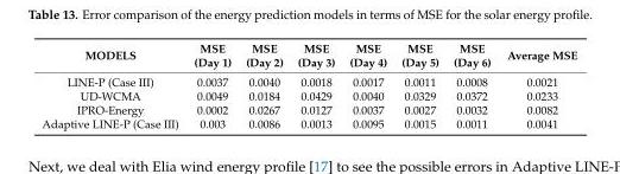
<table><thead><tr><td>MODELS</td><td>MSE (Day 1)</td><td>MSE (Day 2)</td><td>MSE (Day 3)</td><td>MSE (Day 4)</td><td>MSE (Day 5)</td><td>MSE (Day 6)</td><td>Average MSE</td></tr></thead><tbody><tr><td>LINE-P (Case III)</td><td>0.0037</td><td>0.0040</td><td>0.0018</td><td>0.0017</td><td>0.0011</td><td>0.0008</td><td>0.0021</td></tr><tr><td>UD-WCMA</td><td>0.0049</td><td>0.0184</td><td>0.0429</td><td>0.0040</td><td>0.0329</td><td>0.0372</td><td>0.0233</td></tr><tr><td>IPRO-Energy</td><td>0.0002</td><td>0.0267</td><td>0.0127</td><td>0.0037</td><td>0.0027</td><td>0.0032</td><td>0.0082</td></tr><tr><td>Adaptive LINE-P (Case III)</td><td>0.003</td><td>0.0086</td><td>0.0013</td><td>0.0095</td><td>0.0015</td><td>0.0011</td><td>0.0041</td></tr></tbody></table>